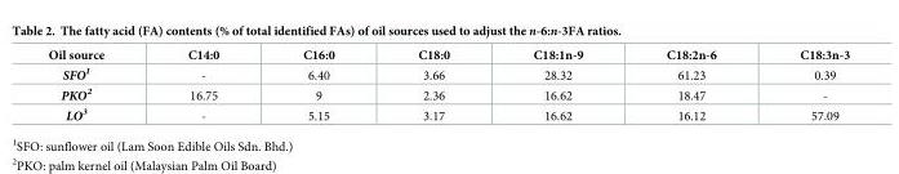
<table><thead><tr><td>Oil source</td><td>C14:0</td><td>C16:0</td><td>C18:0</td><td>C18:1n-9</td><td>C18:2n-6</td><td>C18:3n-3</td></tr></thead><tbody><tr><td>SFO<sup>1</sup></td><td>-</td><td>6.40</td><td>3.66</td><td>28.32</td><td>61.23</td><td>0.39</td></tr><tr><td>PKO<sup>2</sup></td><td>16.75</td><td>9</td><td>2.36</td><td>16.62</td><td>18.47</td><td>-</td></tr><tr><td>LO<sup>3</sup></td><td>-</td><td>5.15</td><td>3.17</td><td>16.62</td><td>16.12</td><td>57.09</td></tr></tbody></table>